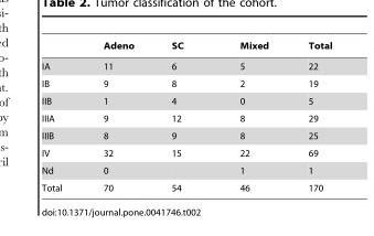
<table><thead><tr><td></td><td>Adeno</td><td>SC</td><td>Mixed</td><td>Total</td></tr></thead><tbody><tr><td>IA</td><td>11</td><td>6</td><td>5</td><td>22</td></tr><tr><td>IB</td><td>9</td><td>8</td><td>2</td><td>19</td></tr><tr><td>IIB</td><td>1</td><td>4</td><td>0</td><td>5</td></tr><tr><td>IIIA</td><td>9</td><td>12</td><td>8</td><td>29</td></tr><tr><td>IIIB</td><td>8</td><td>9</td><td>8</td><td>25</td></tr><tr><td>IV</td><td>32</td><td>15</td><td>22</td><td>69</td></tr><tr><td>Nd</td><td>0</td><td></td><td>1</td><td>1</td></tr><tr><td>Total</td><td>70</td><td>54</td><td>46</td><td>170</td></tr></tbody></table>